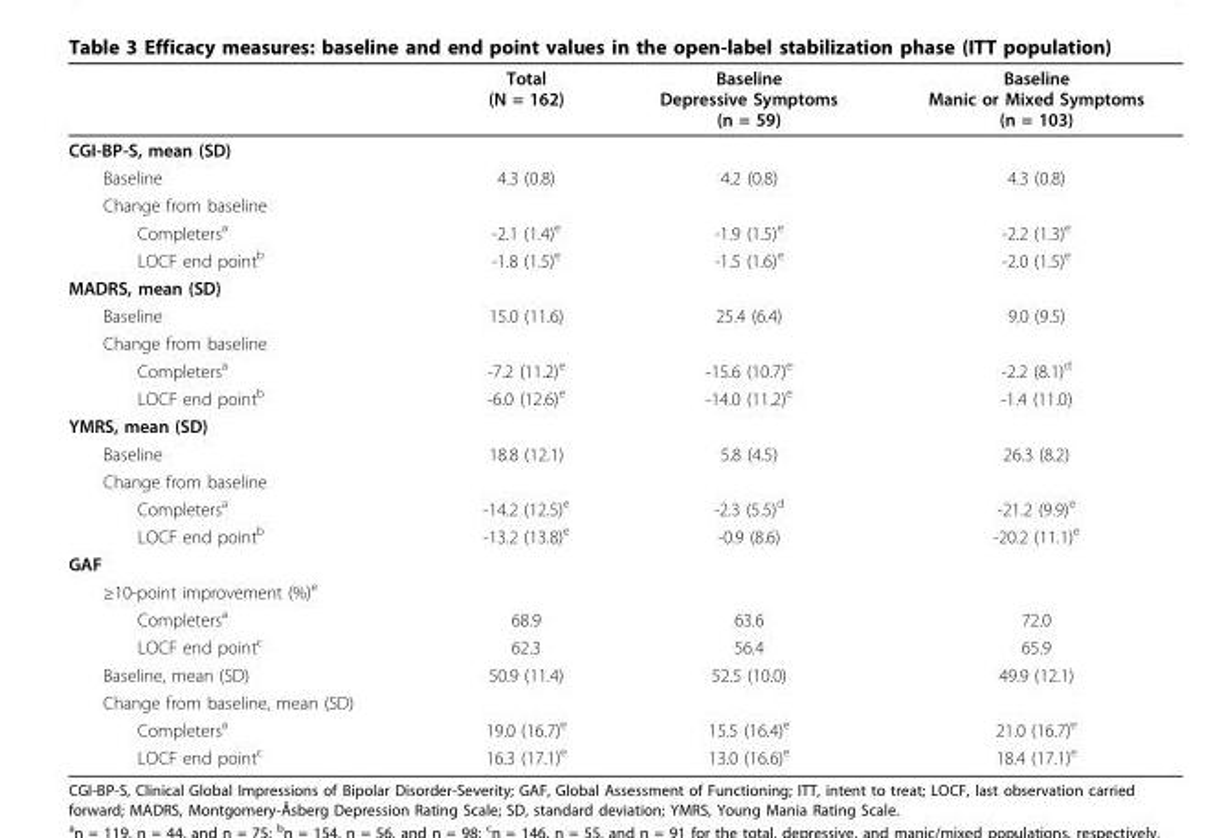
<table><thead><tr><td></td><td>Total (N = 162)</td><td>Baseline Depressive Symptoms (n = 59)</td><td>Baseline Manic or Mixed Symptoms (n = 103)</td></tr></thead><tbody><tr><td colspan="4">CGI-BP-S, mean (SD)</td></tr><tr><td>Baseline</td><td>4.3 (0.8)</td><td>4.2 (0.8)</td><td>4.3 (0.8)</td></tr><tr><td colspan="4">Change from baseline</td></tr><tr><td>Completers<sup>a</sup></td><td>-2.1 (1.4)<sup>e</sup></td><td>-1.9 (1.5)<sup>e</sup></td><td>-2.2 (1.3)<sup>e</sup></td></tr><tr><td>LOCF end point<sup>b</sup></td><td>-1.8 (1.5)<sup>e</sup></td><td>-1.5 (1.6)<sup>e</sup></td><td>-2.0 (1.5)<sup>e</sup></td></tr><tr><td colspan="4">MADRS, mean (SD)</td></tr><tr><td>Baseline</td><td>15.0 (11.6)</td><td>25.4 (6.4)</td><td>9.0 (9.5)</td></tr><tr><td colspan="4">Change from baseline</td></tr><tr><td>Completers<sup>a</sup></td><td>-7.2 (11.2)<sup>e</sup></td><td>-15.6 (10.7)<sup>e</sup></td><td>-2.2 (8.1)<sup>d</sup></td></tr><tr><td>LOCF end point<sup>b</sup></td><td>-6.0 (12.6)<sup>e</sup></td><td>-14.0 (11.2)<sup>e</sup></td><td>-1.4 (11.0)</td></tr><tr><td colspan="4">YMRS, mean (SD)</td></tr><tr><td>Baseline</td><td>18.8 (12.1)</td><td>5.8 (4.5)</td><td>26.3 (8.2)</td></tr><tr><td colspan="4">Change from baseline</td></tr><tr><td>Completers<sup>a</sup></td><td>-14.2 (12.5)<sup>e</sup></td><td>-2.3 (5.5)<sup>d</sup></td><td>-21.2 (9.9)<sup>e</sup></td></tr><tr><td>LOCF end point<sup>b</sup></td><td>-13.2 (13.8)<sup>e</sup></td><td>-0.9 (8.6)</td><td>-20.2 (11.1)<sup>e</sup></td></tr><tr><td colspan="4">GAF</td></tr><tr><td colspan="4">≥10-point improvement (%)<sup>e</sup></td></tr><tr><td>Completers<sup>a</sup></td><td>68.9</td><td>63.6</td><td>72.0</td></tr><tr><td>LOCF end point<sup>c</sup></td><td>62.3</td><td>56.4</td><td>65.9</td></tr><tr><td>Baseline, mean (SD)</td><td>50.9 (11.4)</td><td>52.5 (10.0)</td><td>49.9 (12.1)</td></tr><tr><td colspan="4">Change from baseline, mean (SD)</td></tr><tr><td>Completers<sup>a</sup></td><td>19.0 (16.7)<sup>e</sup></td><td>15.5 (16.4)<sup>e</sup></td><td>21.0 (16.7)<sup>e</sup></td></tr><tr><td>LOCF end point<sup>c</sup></td><td>16.3 (17.1)<sup>e</sup></td><td>13.0 (16.6)<sup>e</sup></td><td>18.4 (17.1)<sup>e</sup></td></tr></tbody></table>